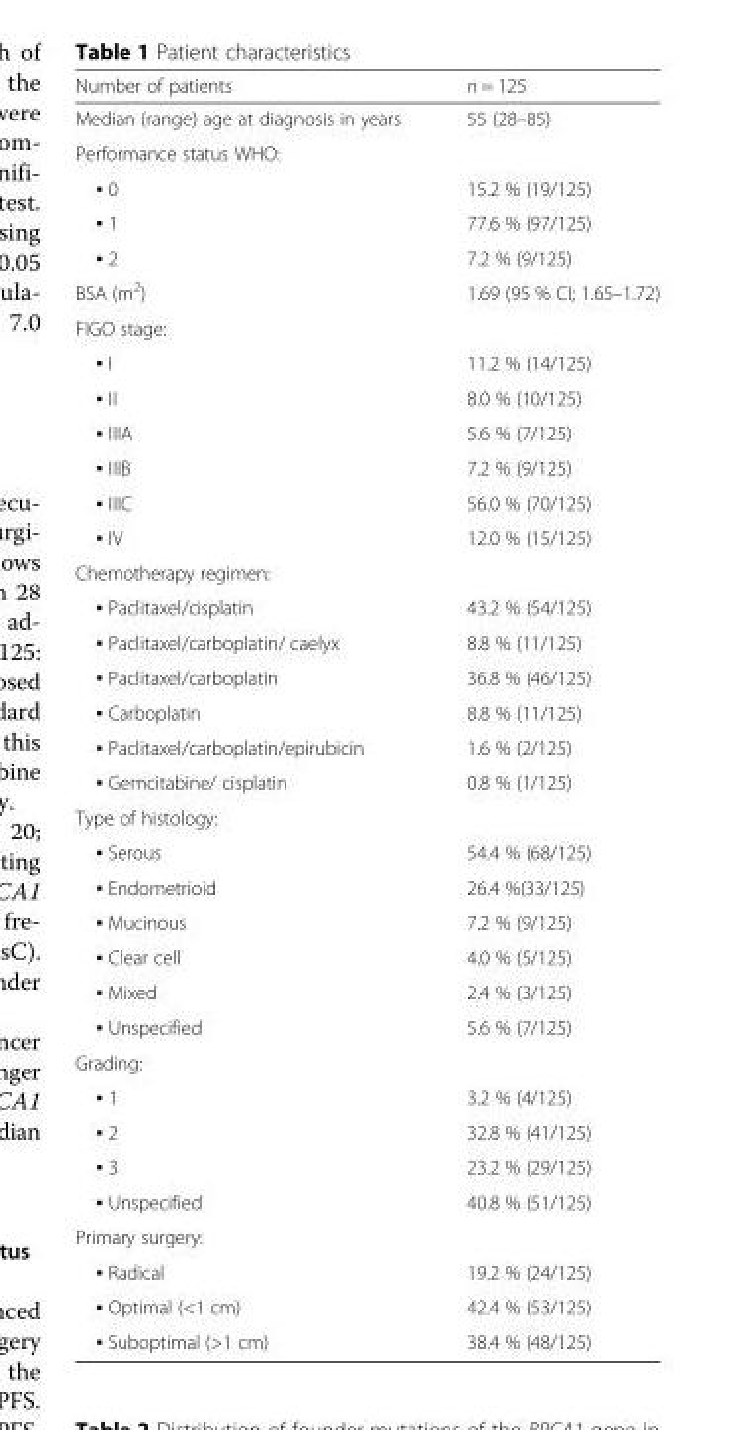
<table><thead><tr><td>Number of patients</td><td>n = 125</td></tr></thead><tbody><tr><td>Median (range) age at diagnosis in years</td><td>55 (28–85)</td></tr><tr><td colspan="2">Performance status WHO:</td></tr><tr><td>▪ 0</td><td>15.2 % (19/125)</td></tr><tr><td>▪ 1</td><td>77.6 % (97/125)</td></tr><tr><td>▪ 2</td><td>7.2 % (9/125)</td></tr><tr><td>BSA (m<sup>2</sup>)</td><td>1.69 (95 % CI; 1.65–1.72)</td></tr><tr><td colspan="2">FIGO stage:</td></tr><tr><td>▪ I</td><td>11.2 % (14/125)</td></tr><tr><td>▪ II</td><td>8.0 % (10/125)</td></tr><tr><td>▪ IIIA</td><td>5.6 % (7/125)</td></tr><tr><td>▪ IIIB</td><td>7.2 % (9/125)</td></tr><tr><td>▪ IIIC</td><td>56.0 % (70/125)</td></tr><tr><td>▪ IV</td><td>12.0 % (15/125)</td></tr><tr><td colspan="2">Chemotherapy regimen:</td></tr><tr><td>▪ Paclitaxel/cisplatin</td><td>43.2 % (54/125)</td></tr><tr><td>▪ Paclitaxel/carboplatin/ caelyx</td><td>8.8 % (11/125)</td></tr><tr><td>▪ Paclitaxel/carboplatin</td><td>36.8 % (46/125)</td></tr><tr><td>▪ Carboplatin</td><td>8.8 % (11/125)</td></tr><tr><td>▪ Paclitaxel/carboplatin/epirubicin</td><td>1.6 % (2/125)</td></tr><tr><td>▪ Gemcitabine/ cisplatin</td><td>0.8 % (1/125)</td></tr><tr><td colspan="2">Type of histology:</td></tr><tr><td>▪ Serous</td><td>54.4 % (68/125)</td></tr><tr><td>▪ Endometrioid</td><td>26.4 %(33/125)</td></tr><tr><td>▪ Mucinous</td><td>7.2 % (9/125)</td></tr><tr><td>▪ Clear cell</td><td>4.0 % (5/125)</td></tr><tr><td>▪ Mixed</td><td>2.4 % (3/125)</td></tr><tr><td>▪ Unspecified</td><td>5.6 % (7/125)</td></tr><tr><td colspan="2">Grading:</td></tr><tr><td>▪ 1</td><td>3.2 % (4/125)</td></tr><tr><td>▪ 2</td><td>32.8 % (41/125)</td></tr><tr><td>▪ 3</td><td>23.2 % (29/125)</td></tr><tr><td>▪ Unspecified</td><td>40.8 % (51/125)</td></tr><tr><td colspan="2">Primary surgery:</td></tr><tr><td>▪ Radical</td><td>19.2 % (24/125)</td></tr><tr><td>▪ Optimal (&lt;1 cm)</td><td>42.4 % (53/125)</td></tr><tr><td>▪ Suboptimal (&gt;1 cm)</td><td>38.4 % (48/125)</td></tr></tbody></table>